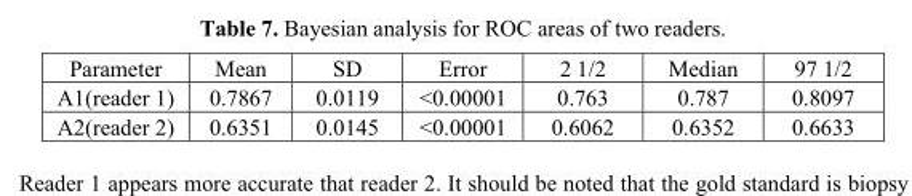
<table><thead><tr><td>Parameter</td><td>Mean</td><td>SD</td><td>Error</td><td>2 1/2</td><td>Median</td><td>97 1/2</td></tr></thead><tbody><tr><td>A1(reader 1)</td><td>0.7867</td><td>0.0119</td><td>&lt;0.00001</td><td>0.763</td><td>0.787</td><td>0.8097</td></tr><tr><td>A2(reader 2)</td><td>0.6351</td><td>0.0145</td><td>&lt;0.00001</td><td>0.6062</td><td>0.6352</td><td>0.6633</td></tr></tbody></table>